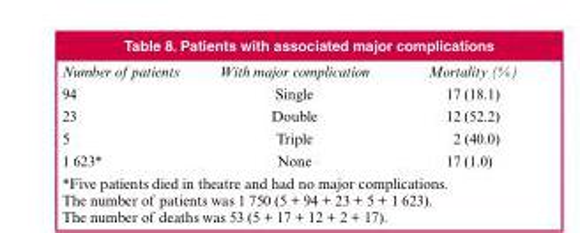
<table><thead><tr><td>Number of patients</td><td>With major complication</td><td>Mortality (%)</td></tr></thead><tbody><tr><td>94</td><td>Single</td><td>17 (18.1)</td></tr><tr><td>23</td><td>Double</td><td>12 (52.2)</td></tr><tr><td>5</td><td>Triple</td><td>2 (40.0)</td></tr><tr><td>1 623*</td><td>None</td><td>17 (1.0)</td></tr></tbody></table>